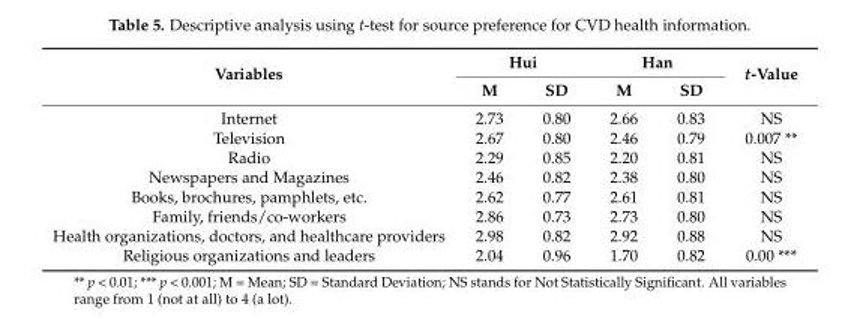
<table><thead><tr><td rowspan="2">Variables</td><td colspan="2">Hui</td><td colspan="2">Han</td><td rowspan="2">t-Value</td></tr><tr><td>M</td><td>SD</td><td>M</td><td>SD</td></tr></thead><tbody><tr><td>Internet</td><td>2.73</td><td>0.80</td><td>2.66</td><td>0.83</td><td>NS</td></tr><tr><td>Television</td><td>2.67</td><td>0.80</td><td>2.46</td><td>0.79</td><td>0.007 **</td></tr><tr><td>Radio</td><td>2.29</td><td>0.85</td><td>2.20</td><td>0.81</td><td>NS</td></tr><tr><td>Newspapers and Magazines</td><td>2.46</td><td>0.82</td><td>2.38</td><td>0.80</td><td>NS</td></tr><tr><td>Books, brochures, pamphlets, etc.</td><td>2.62</td><td>0.77</td><td>2.61</td><td>0.81</td><td>NS</td></tr><tr><td>Family, friends/co-workers</td><td>2.86</td><td>0.73</td><td>2.73</td><td>0.80</td><td>NS</td></tr><tr><td>Health organizations, doctors, and healthcare providers</td><td>2.98</td><td>0.82</td><td>2.92</td><td>0.88</td><td>NS</td></tr><tr><td>Religious organizations and leaders</td><td>2.04</td><td>0.96</td><td>1.70</td><td>0.82</td><td>0.00 ***</td></tr></tbody></table>